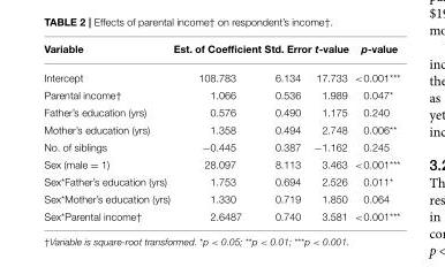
<table><thead><tr><td>Variable</td><td>Est. of Coefficient</td><td>Std. Error</td><td>t-value</td><td>p-value</td></tr></thead><tbody><tr><td>Intercept</td><td>108.783</td><td>6.134</td><td>17.733</td><td>&lt;0.001***</td></tr><tr><td>Parental income†</td><td>1.066</td><td>0.536</td><td>1.989</td><td>0.047*</td></tr><tr><td>Father’s education (yrs)</td><td>0.576</td><td>0.490</td><td>1.175</td><td>0.240</td></tr><tr><td>Mother’s education (yrs)</td><td>1.358</td><td>0.494</td><td>2.748</td><td>0.006**</td></tr><tr><td>No. of siblings</td><td>−0.445</td><td>0.387</td><td>−1.162</td><td>0.245</td></tr><tr><td>Sex (male = 1)</td><td>28.097</td><td>8.113</td><td>3.463</td><td>&lt;0.001***</td></tr><tr><td>Sex*Father’s education (yrs)</td><td>1.753</td><td>0.694</td><td>2.526</td><td>0.011*</td></tr><tr><td>Sex*Mother’s education (yrs)</td><td>1.330</td><td>0.719</td><td>1.850</td><td>0.064</td></tr><tr><td>Sex*Parental income†</td><td>2.6487</td><td>0.740</td><td>3.581</td><td>&lt;0.001***</td></tr></tbody></table>